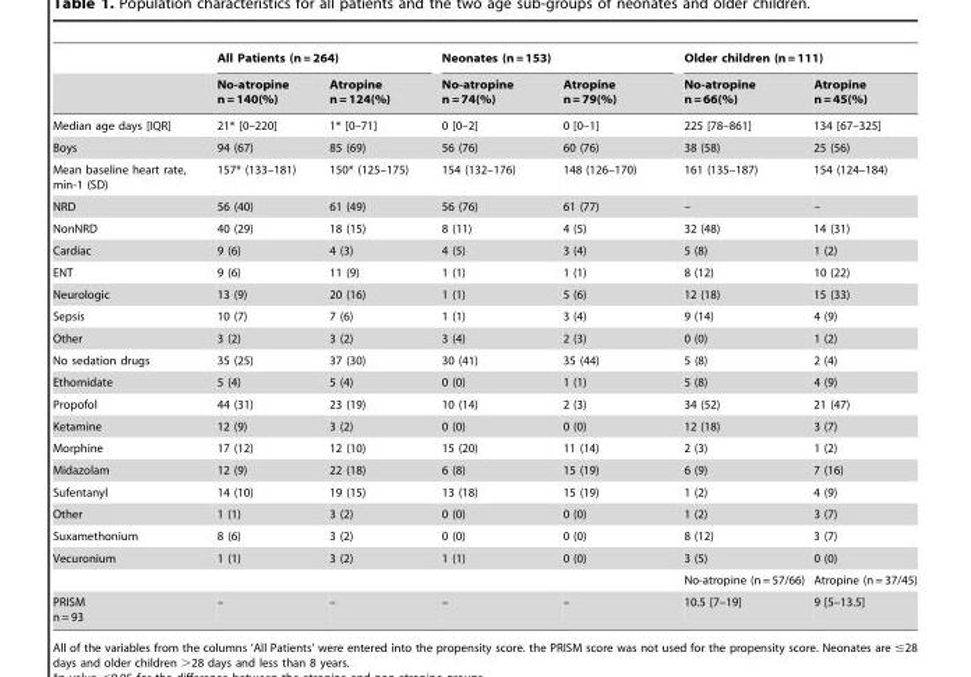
<table><thead><tr><td rowspan="2"></td><td colspan="2">All Patients (n = 264)</td><td colspan="2">Neonates (n = 153)</td><td colspan="2">Older children (n = 111)</td></tr><tr><td>No-atropine n = 140(%)</td><td>Atropine n = 124(%)</td><td>No-atropine n = 74(%)</td><td>Atropine n = 79(%)</td><td>No-atropine n = 66(%)</td><td>Atropine n = 45(%)</td></tr></thead><tbody><tr><td>Median age days [IQR]</td><td>21* [0–220]</td><td>1* [0–71]</td><td>0 [0–2]</td><td>0 [0–1]</td><td>225 [78–861]</td><td>134 [67–325]</td></tr><tr><td>Boys</td><td>94 (67)</td><td>85 (69)</td><td>56 (76)</td><td>60 (76)</td><td>38 (58)</td><td>25 (56)</td></tr><tr><td>Mean baseline heart rate, min-1 (SD)</td><td>157* (133–181)</td><td>150* (125–175)</td><td>154 (132–176)</td><td>148 (126–170)</td><td>161 (135–187)</td><td>154 (124–184)</td></tr><tr><td>NRD</td><td>56 (40)</td><td>61 (49)</td><td>56 (76)</td><td>61 (77)</td><td>–</td><td>–</td></tr><tr><td>NonNRD</td><td>40 (29)</td><td>18 (15)</td><td>8 (11)</td><td>4 (5)</td><td>32 (48)</td><td>14 (31)</td></tr><tr><td>Cardiac</td><td>9 (6)</td><td>4 (3)</td><td>4 (5)</td><td>3 (4)</td><td>5 (8)</td><td>1 (2)</td></tr><tr><td>ENT</td><td>9 (6)</td><td>11 (9)</td><td>1 (1)</td><td>1 (1)</td><td>8 (12)</td><td>10 (22)</td></tr><tr><td>Neurologic</td><td>13 (9)</td><td>20 (16)</td><td>1 (1)</td><td>5 (6)</td><td>12 (18)</td><td>15 (33)</td></tr><tr><td>Sepsis</td><td>10 (7)</td><td>7 (6)</td><td>1 (1)</td><td>3 (4)</td><td>9 (14)</td><td>4 (9)</td></tr><tr><td>Other</td><td>3 (2)</td><td>3 (2)</td><td>3 (4)</td><td>2 (3)</td><td>0 (0)</td><td>1 (2)</td></tr><tr><td>No sedation drugs</td><td>35 (25)</td><td>37 (30)</td><td>30 (41)</td><td>35 (44)</td><td>5 (8)</td><td>2 (4)</td></tr><tr><td>Ethomidate</td><td>5 (4)</td><td>5 (4)</td><td>0 (0)</td><td>1 (1)</td><td>5 (8)</td><td>4 (9)</td></tr><tr><td>Propofol</td><td>44 (31)</td><td>23 (19)</td><td>10 (14)</td><td>2 (3)</td><td>34 (52)</td><td>21 (47)</td></tr><tr><td>Ketamine</td><td>12 (9)</td><td>3 (2)</td><td>0 (0)</td><td>0 (0)</td><td>12 (18)</td><td>3 (7)</td></tr><tr><td>Morphine</td><td>17 (12)</td><td>12 (10)</td><td>15 (20)</td><td>11 (14)</td><td>2 (3)</td><td>1 (2)</td></tr><tr><td>Midazolam</td><td>12 (9)</td><td>22 (18)</td><td>6 (8)</td><td>15 (19)</td><td>6 (9)</td><td>7 (16)</td></tr><tr><td>Sufentanyl</td><td>14 (10)</td><td>19 (15)</td><td>13 (18)</td><td>15 (19)</td><td>1 (2)</td><td>4 (9)</td></tr><tr><td>Other</td><td>1 (1)</td><td>3 (2)</td><td>0 (0)</td><td>0 (0)</td><td>1 (2)</td><td>3 (7)</td></tr><tr><td>Suxamethonium</td><td>8 (6)</td><td>3 (2)</td><td>0 (0)</td><td>0 (0)</td><td>8 (12)</td><td>3 (7)</td></tr><tr><td>Vecuronium</td><td>1 (1)</td><td>3 (2)</td><td>1 (1)</td><td>0 (0)</td><td>3 (5)</td><td>0 (0)</td></tr><tr><td colspan="5"></td><td>No-atropine (n = 57/66)</td><td>Atropine (n = 37/45)</td></tr><tr><td>PRISM n = 93</td><td>–</td><td>–</td><td>–</td><td>–</td><td>10.5 [7–19]</td><td>9 [5–13.5]</td></tr></tbody></table>